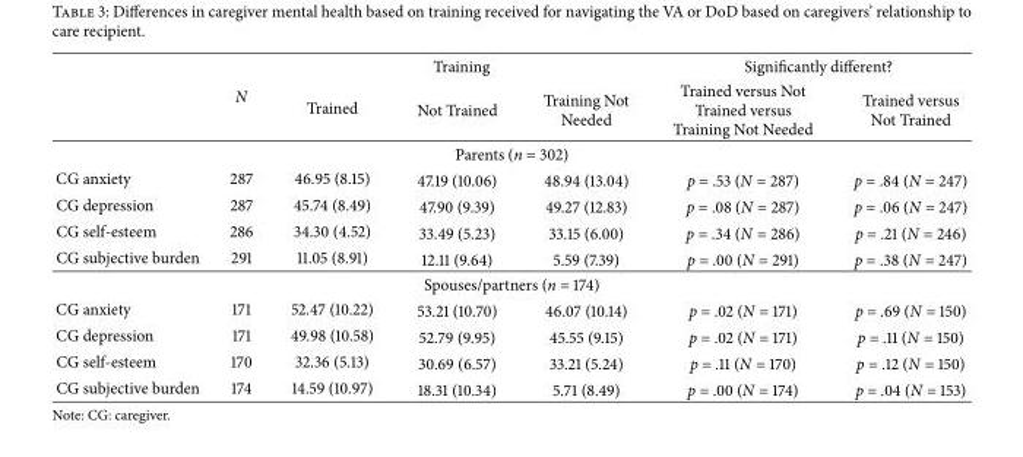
<table><thead><tr><td rowspan="2"></td><td rowspan="2">N</td><td colspan="3">Training</td><td colspan="2">Significantly different?</td></tr><tr><td>Trained</td><td>Not Trained</td><td>Training Not Needed</td><td>Trained versus Not Trained versus Training Not Needed</td><td>Trained versus Not Trained</td></tr></thead><tbody><tr><td colspan="7">Parents (n = 302)</td></tr><tr><td>CG anxiety</td><td>287</td><td>46.95 (8.15)</td><td>47.19 (10.06)</td><td>48.94 (13.04)</td><td>p = .53 (N = 287)</td><td>p = .84 (N = 247)</td></tr><tr><td>CG depression</td><td>287</td><td>45.74 (8.49)</td><td>47.90 (9.39)</td><td>49.27 (12.83)</td><td>p = .08 (N = 287)</td><td>p = .06 (N = 247)</td></tr><tr><td>CG self-esteem</td><td>286</td><td>34.30 (4.52)</td><td>33.49 (5.23)</td><td>33.15 (6.00)</td><td>p = .34 (N = 286)</td><td>p = .21 (N = 246)</td></tr><tr><td>CG subjective burden</td><td>291</td><td>11.05 (8.91)</td><td>12.11 (9.64)</td><td>5.59 (7.39)</td><td>p = .00 (N = 291)</td><td>p = .38 (N = 247)</td></tr><tr><td colspan="7">Spouses/partners (n = 174)</td></tr><tr><td>CG anxiety</td><td>171</td><td>52.47 (10.22)</td><td>53.21 (10.70)</td><td>46.07 (10.14)</td><td>p = .02 (N = 171)</td><td>p = .69 (N = 150)</td></tr><tr><td>CG depression</td><td>171</td><td>49.98 (10.58)</td><td>52.79 (9.95)</td><td>45.55 (9.15)</td><td>p = .02 (N = 171)</td><td>p = .11 (N = 150)</td></tr><tr><td>CG self-esteem</td><td>170</td><td>32.36 (5.13)</td><td>30.69 (6.57)</td><td>33.21 (5.24)</td><td>p = .11 (N = 170)</td><td>p = .12 (N = 150)</td></tr><tr><td>CG subjective burden</td><td>174</td><td>14.59 (10.97)</td><td>18.31 (10.34)</td><td>5.71 (8.49)</td><td>p = .00 (N = 174)</td><td>p = .04 (N = 153)</td></tr></tbody></table>